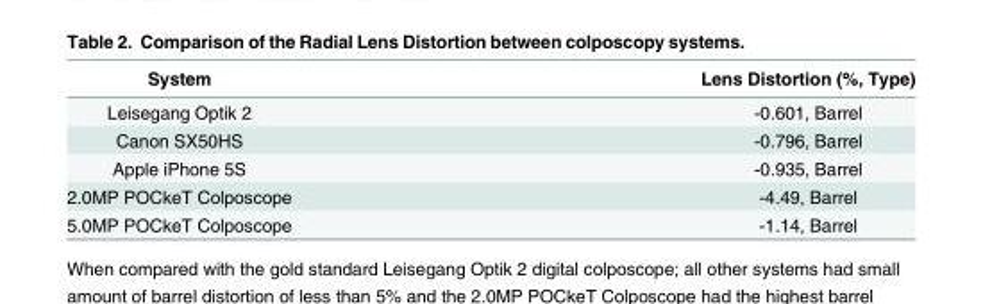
<table><thead><tr><td>System</td><td>Lens Distortion (%, Type)</td></tr></thead><tbody><tr><td>Leisegang Optik 2</td><td>-0.601, Barrel</td></tr><tr><td>Canon SX50HS</td><td>-0.796, Barrel</td></tr><tr><td>Apple iPhone 5S</td><td>-0.935, Barrel</td></tr><tr><td>2.0MP POCkeT Colposcope</td><td>-4.49, Barrel</td></tr><tr><td>5.0MP POCkeT Colposcope</td><td>-1.14, Barrel</td></tr></tbody></table>